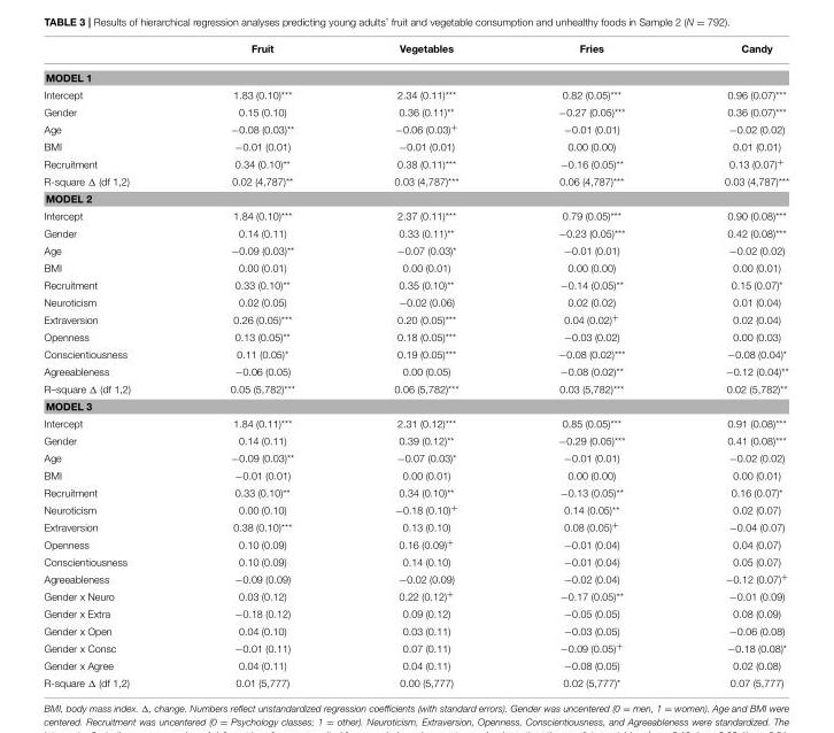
<table><thead><tr><td></td><td>Fruit</td><td>Vegetables</td><td>Fries</td><td>Candy</td></tr></thead><tbody><tr><td colspan="5">MODEL 1</td></tr><tr><td>Intercept</td><td>1.83 (0.10)***</td><td>2.34 (0.11)***</td><td>0.82 (0.05)***</td><td>0.96 (0.07)***</td></tr><tr><td>Gender</td><td>0.15 (0.10)</td><td>0.36 (0.11)**</td><td>−0.27 (0.05)***</td><td>0.36 (0.07)***</td></tr><tr><td>Age</td><td>−0.08 (0.03)**</td><td>−0.06 (0.03)+</td><td>−0.01 (0.01)</td><td>−0.02 (0.02)</td></tr><tr><td>BMI</td><td>−0.01 (0.01)</td><td>−0.01 (0.01)</td><td>0.00 (0.00)</td><td>0.01 (0.01)</td></tr><tr><td>Recruitment</td><td>0.34 (0.10)**</td><td>0.38 (0.11)***</td><td>−0.16 (0.05)**</td><td>0.13 (0.07)+</td></tr><tr><td>R-square Δ (df 1,2)</td><td>0.02 (4,787)**</td><td>0.03 (4,787)***</td><td>0.06 (4,787)***</td><td>0.03 (4,787)***</td></tr><tr><td colspan="5">MODEL 2</td></tr><tr><td>Intercept</td><td>1.84 (0.10)***</td><td>2.37 (0.11)***</td><td>0.79 (0.05)***</td><td>0.90 (0.08)***</td></tr><tr><td>Gender</td><td>0.14 (0.11)</td><td>0.33 (0.11)**</td><td>−0.23 (0.05)***</td><td>0.42 (0.08)***</td></tr><tr><td>Age</td><td>−0.09 (0.03)**</td><td>−0.07 (0.03)*</td><td>−0.01 (0.01)</td><td>−0.02 (0.02)</td></tr><tr><td>BMI</td><td>0.00 (0.01)</td><td>0.00 (0.01)</td><td>0.00 (0.00)</td><td>0.00 (0.01)</td></tr><tr><td>Recruitment</td><td>0.33 (0.10)**</td><td>0.35 (0.10)**</td><td>−0.14 (0.05)**</td><td>0.15 (0.07)*</td></tr><tr><td>Neuroticism</td><td>0.02 (0.05)</td><td>−0.02 (0.06)</td><td>0.02 (0.02)</td><td>0.01 (0.04)</td></tr><tr><td>Extraversion</td><td>0.26 (0.05)***</td><td>0.20 (0.05)***</td><td>0.04 (0.02)+</td><td>0.02 (0.04)</td></tr><tr><td>Openness</td><td>0.13 (0.05)**</td><td>0.18 (0.05)***</td><td>−0.03 (0.02)</td><td>0.00 (0.03)</td></tr><tr><td>Conscientiousness</td><td>0.11 (0.05)*</td><td>0.19 (0.05)***</td><td>−0.08 (0.02)***</td><td>−0.08 (0.04)*</td></tr><tr><td>Agreeableness</td><td>−0.06 (0.05)</td><td>0.00 (0.05)</td><td>−0.08 (0.02)**</td><td>−0.12 (0.04)**</td></tr><tr><td>R–square Δ (df 1,2)</td><td>0.05 (5,782)***</td><td>0.06 (5,782)***</td><td>0.03 (5,782)***</td><td>0.02 (5,782)**</td></tr><tr><td colspan="5">MODEL 3</td></tr><tr><td>Intercept</td><td>1.84 (0.11)***</td><td>2.31 (0.12)***</td><td>0.85 (0.05)***</td><td>0.91 (0.08)***</td></tr><tr><td>Gender</td><td>0.14 (0.11)</td><td>0.39 (0.12)**</td><td>−0.29 (0.05)***</td><td>0.41 (0.08)***</td></tr><tr><td>Age</td><td>−0.09 (0.03)**</td><td>−0.07 (0.03)*</td><td>−0.01 (0.01)</td><td>−0.02 (0.02)</td></tr><tr><td>BMI</td><td>−0.01 (0.01)</td><td>0.00 (0.01)</td><td>0.00 (0.00)</td><td>0.00 (0.01)</td></tr><tr><td>Recruitment</td><td>0.33 (0.10)**</td><td>0.34 (0.10)**</td><td>−0.13 (0.05)**</td><td>0.16 (0.07)*</td></tr><tr><td>Neuroticism</td><td>0.00 (0.10)</td><td>−0.18 (0.10)+</td><td>0.14 (0.05)**</td><td>0.02 (0.07)</td></tr><tr><td>Extraversion</td><td>0.38 (0.10)***</td><td>0.13 (0.10)</td><td>0.08 (0.05)+</td><td>−0.04 (0.07)</td></tr><tr><td>Openness</td><td>0.10 (0.09)</td><td>0.16 (0.09)+</td><td>−0.01 (0.04)</td><td>0.04 (0.07)</td></tr><tr><td>Conscientiousness</td><td>0.10 (0.09)</td><td>0.14 (0.10)</td><td>−0.01 (0.04)</td><td>0.05 (0.07)</td></tr><tr><td>Agreeableness</td><td>−0.09 (0.09)</td><td>−0.02 (0.09)</td><td>−0.02 (0.04)</td><td>−0.12 (0.07)+</td></tr><tr><td>Gender x Neuro</td><td>0.03 (0.12)</td><td>0.22 (0.12)+</td><td>−0.17 (0.05)**</td><td>−0.01 (0.09)</td></tr><tr><td>Gender x Extra</td><td>−0.18 (0.12)</td><td>0.09 (0.12)</td><td>−0.05 (0.05)</td><td>0.08 (0.09)</td></tr><tr><td>Gender x Open</td><td>0.04 (0.10)</td><td>0.03 (0.11)</td><td>−0.03 (0.05)</td><td>−0.06 (0.08)</td></tr><tr><td>Gender x Consc</td><td>−0.01 (0.11)</td><td>0.07 (0.11)</td><td>−0.09 (0.05)+</td><td>−0.18 (0.08)*</td></tr><tr><td>Gender x Agree</td><td>0.04 (0.11)</td><td>0.04 (0.11)</td><td>−0.08 (0.05)</td><td>0.02 (0.08)</td></tr><tr><td>R-square Δ (df 1,2)</td><td>0.01 (5,777)</td><td>0.00 (5,777)</td><td>0.02 (5,777)*</td><td>0.07 (5,777)</td></tr></tbody></table>